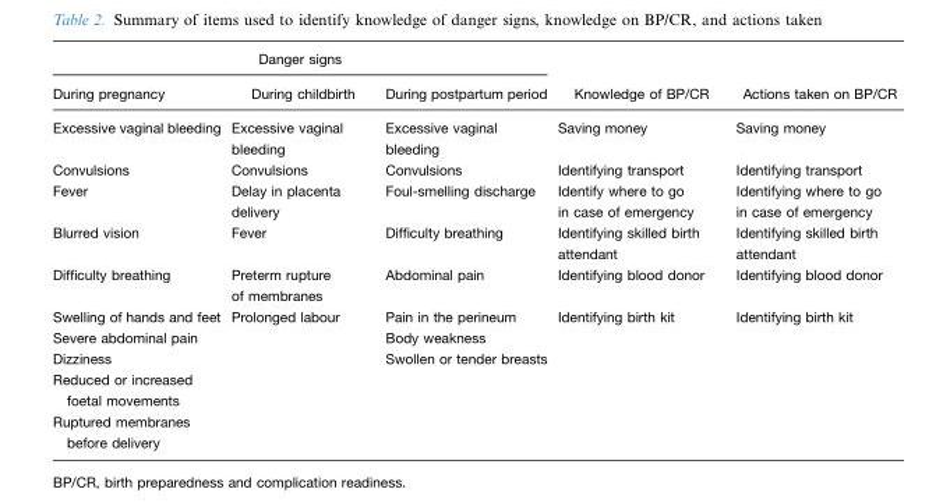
<table><thead><tr><td colspan="3">Danger signs</td><td rowspan="2">Knowledge of BP/CR</td><td rowspan="2">Actions taken on BP/CR</td></tr><tr><td>During pregnancy</td><td>During childbirth</td><td>During postpartum period</td></tr></thead><tbody><tr><td>Excessive vaginal bleeding</td><td>Excessive vaginal bleeding</td><td>Excessive vaginal bleeding</td><td>Saving money</td><td>Saving money</td></tr><tr><td>Convulsions</td><td>Convulsions</td><td>Convulsions</td><td>Identifying transport</td><td>Identifying transport</td></tr><tr><td>Fever</td><td>Delay in placenta delivery</td><td>Foul-smelling discharge</td><td>Identify where to go in case of emergency</td><td>Identifying where to go in case of emergency</td></tr><tr><td>Blurred vision</td><td>Fever</td><td>Difficulty breathing</td><td>Identifying skilled birth attendant</td><td>Identifying skilled birth attendant</td></tr><tr><td>Difficulty breathing</td><td>Preterm rupture of membranes</td><td>Abdominal pain</td><td>Identifying blood donor</td><td>Identifying blood donor</td></tr><tr><td>Swelling of hands and feet</td><td>Prolonged labour</td><td>Pain in the perineum</td><td>Identifying birth kit</td><td>Identifying birth kit</td></tr><tr><td>Severe abdominal pain</td><td></td><td>Body weakness</td><td></td><td></td></tr><tr><td>Dizziness</td><td></td><td>Swollen or tender breasts</td><td></td><td></td></tr><tr><td colspan="5">Reduced or increased foetal movements</td></tr><tr><td>Ruptured membranes before delivery</td><td></td><td></td><td></td><td></td></tr></tbody></table>